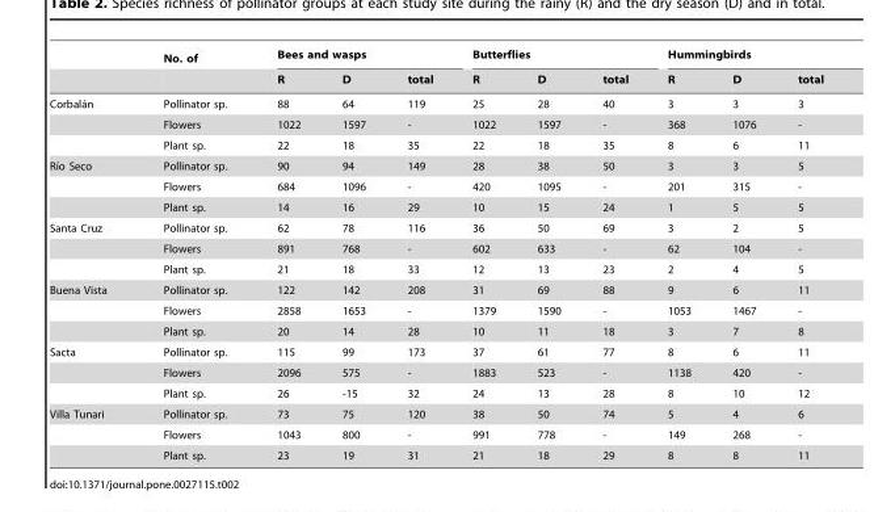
<table><thead><tr><td rowspan="2"></td><td rowspan="2">No. of</td><td colspan="3">Bees and wasps</td><td colspan="3">Butterflies</td><td colspan="3">Hummingbirds</td></tr><tr><td>R</td><td>D</td><td>total</td><td>R</td><td>D</td><td>total</td><td>R</td><td>D</td><td>total</td></tr></thead><tbody><tr><td rowspan="3">Corbala´n</td><td>Pollinator sp.</td><td>88</td><td>64</td><td>119</td><td>25</td><td>28</td><td>40</td><td>3</td><td>3</td><td>3</td></tr><tr><td>Flowers</td><td>1022</td><td>1597</td><td>-</td><td>1022</td><td>1597</td><td>-</td><td>368</td><td>1076</td><td>-</td></tr><tr><td>Plant sp.</td><td>22</td><td>18</td><td>35</td><td>22</td><td>18</td><td>35</td><td>8</td><td>6</td><td>11</td></tr><tr><td rowspan="3">Rı´o Seco</td><td>Pollinator sp.</td><td>90</td><td>94</td><td>149</td><td>28</td><td>38</td><td>50</td><td>3</td><td>3</td><td>5</td></tr><tr><td>Flowers</td><td>684</td><td>1096</td><td>-</td><td>420</td><td>1095</td><td>-</td><td>201</td><td>315</td><td>-</td></tr><tr><td>Plant sp.</td><td>14</td><td>16</td><td>29</td><td>10</td><td>15</td><td>24</td><td>1</td><td>5</td><td>5</td></tr><tr><td rowspan="3">Santa Cruz</td><td>Pollinator sp.</td><td>62</td><td>78</td><td>116</td><td>36</td><td>50</td><td>69</td><td>3</td><td>2</td><td>5</td></tr><tr><td>Flowers</td><td>891</td><td>768</td><td>-</td><td>602</td><td>633</td><td>-</td><td>62</td><td>104</td><td>-</td></tr><tr><td>Plant sp.</td><td>21</td><td>18</td><td>33</td><td>12</td><td>13</td><td>23</td><td>2</td><td>4</td><td>5</td></tr><tr><td rowspan="3">Buena Vista</td><td>Pollinator sp.</td><td>122</td><td>142</td><td>208</td><td>31</td><td>69</td><td>88</td><td>9</td><td>6</td><td>11</td></tr><tr><td>Flowers</td><td>2858</td><td>1653</td><td>-</td><td>1379</td><td>1590</td><td>-</td><td>1053</td><td>1467</td><td>-</td></tr><tr><td>Plant sp.</td><td>20</td><td>14</td><td>28</td><td>10</td><td>11</td><td>18</td><td>3</td><td>7</td><td>8</td></tr><tr><td rowspan="3">Sacta</td><td>Pollinator sp.</td><td>115</td><td>99</td><td>173</td><td>37</td><td>61</td><td>77</td><td>8</td><td>6</td><td>11</td></tr><tr><td>Flowers</td><td>2096</td><td>575</td><td>-</td><td>1883</td><td>523</td><td>-</td><td>1138</td><td>420</td><td>-</td></tr><tr><td>Plant sp.</td><td>26</td><td>-15</td><td>32</td><td>24</td><td>13</td><td>28</td><td>8</td><td>10</td><td>12</td></tr><tr><td rowspan="3">Villa Tunari</td><td>Pollinator sp.</td><td>73</td><td>75</td><td>120</td><td>38</td><td>50</td><td>74</td><td>5</td><td>4</td><td>6</td></tr><tr><td>Flowers</td><td>1043</td><td>800</td><td>-</td><td>991</td><td>778</td><td>-</td><td>149</td><td>268</td><td>-</td></tr><tr><td>Plant sp.</td><td>23</td><td>19</td><td>31</td><td>21</td><td>18</td><td>29</td><td>8</td><td>8</td><td>11</td></tr></tbody></table>